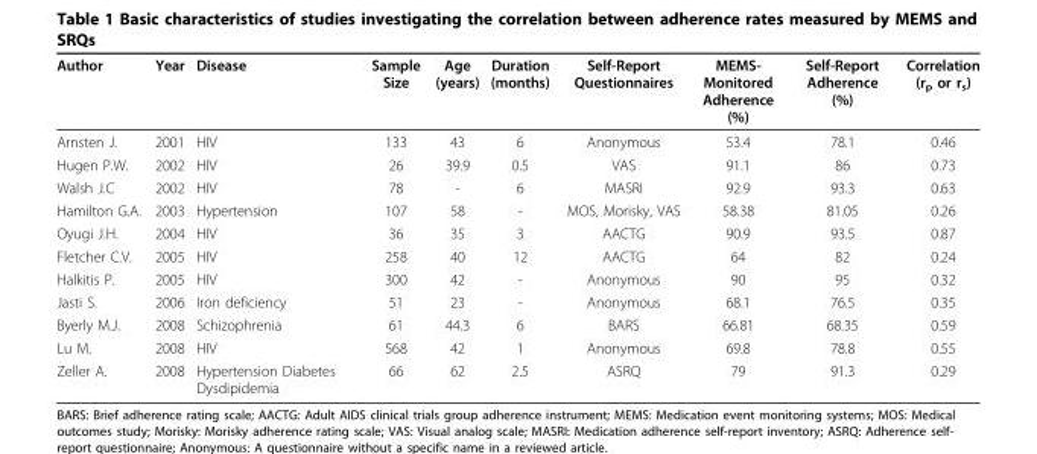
<table><thead><tr><td>Author</td><td>Year</td><td>Disease</td><td>Sample Size</td><td>Age (years)</td><td>Duration (months)</td><td>Self-Report Questionnaires</td><td>MEMS- Monitored Adherence (%)</td><td>Self-Report Adherence (%)</td><td>Correlation (r<sub>p</sub> or r<sub>s</sub>)</td></tr></thead><tbody><tr><td>Arnsten J.</td><td>2001</td><td>HIV</td><td>133</td><td>43</td><td>6</td><td>Anonymous</td><td>53.4</td><td>78.1</td><td>0.46</td></tr><tr><td>Hugen P.W.</td><td>2002</td><td>HIV</td><td>26</td><td>39.9</td><td>0.5</td><td>VAS</td><td>91.1</td><td>86</td><td>0.73</td></tr><tr><td>Walsh J.C</td><td>2002</td><td>HIV</td><td>78</td><td>-</td><td>6</td><td>MASRI</td><td>92.9</td><td>93.3</td><td>0.63</td></tr><tr><td>Hamilton G.A.</td><td>2003</td><td>Hypertension</td><td>107</td><td>58</td><td>-</td><td>MOS, Morisky, VAS</td><td>58.38</td><td>81.05</td><td>0.26</td></tr><tr><td>Oyugi J.H.</td><td>2004</td><td>HIV</td><td>36</td><td>35</td><td>3</td><td>AACTG</td><td>90.9</td><td>93.5</td><td>0.87</td></tr><tr><td>Fletcher C.V.</td><td>2005</td><td>HIV</td><td>258</td><td>40</td><td>12</td><td>AACTG</td><td>64</td><td>82</td><td>0.24</td></tr><tr><td>Halkitis P.</td><td>2005</td><td>HIV</td><td>300</td><td>42</td><td>-</td><td>Anonymous</td><td>90</td><td>95</td><td>0.32</td></tr><tr><td>Jasti S.</td><td>2006</td><td>Iron deficiency</td><td>51</td><td>23</td><td>-</td><td>Anonymous</td><td>68.1</td><td>76.5</td><td>0.35</td></tr><tr><td>Byerly M.J.</td><td>2008</td><td>Schizophrenia</td><td>61</td><td>44.3</td><td>6</td><td>BARS</td><td>66.81</td><td>68.35</td><td>0.59</td></tr><tr><td>Lu M.</td><td>2008</td><td>HIV</td><td>568</td><td>42</td><td>1</td><td>Anonymous</td><td>69.8</td><td>78.8</td><td>0.55</td></tr><tr><td>Zeller A.</td><td>2008</td><td>Hypertension Diabetes Dysdipidemia</td><td>66</td><td>62</td><td>2.5</td><td>ASRQ</td><td>79</td><td>91.3</td><td>0.29</td></tr></tbody></table>